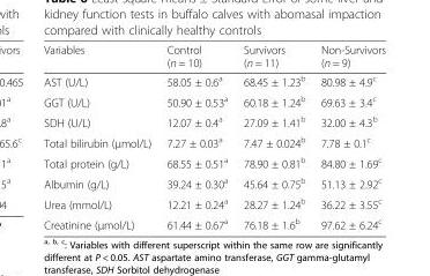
<table><thead><tr><td>Variables</td><td>Control (n = 10)</td><td>Survivors (n = 11)</td><td>Non-Survivors (n = 9)</td></tr></thead><tbody><tr><td>AST (U/L)</td><td>58.05 ± 0.6<sup>a</sup></td><td>68.45 ± 1.23<sup>b</sup></td><td>80.98 ± 4.9<sup>c</sup></td></tr><tr><td>GGT (U/L)</td><td>50.90 ± 0.53<sup>a</sup></td><td>60.18 ± 1.24<sup>b</sup></td><td>69.63 ± 3.4<sup>c</sup></td></tr><tr><td>SDH (U/L)</td><td>12.07 ± 0.4<sup>a</sup></td><td>27.09 ± 1.41<sup>b</sup></td><td>32.00 ± 4.3<sup>b</sup></td></tr><tr><td>Total bilirubin (μmol/L)</td><td>7.27 ± 0.03<sup>a</sup></td><td>7.47 ± 0.024<sup>b</sup></td><td>7.78 ± 0.1<sup>c</sup></td></tr><tr><td>Total protein (g/L)</td><td>68.55 ± 0.51<sup>a</sup></td><td>78.90 ± 0.81<sup>b</sup></td><td>84.80 ± 1.69<sup>c</sup></td></tr><tr><td>Albumin (g/L)</td><td>39.24 ± 0.30<sup>a</sup></td><td>45.64 ± 0.75<sup>b</sup></td><td>51.13 ± 2.92<sup>c</sup></td></tr><tr><td>Urea (mmol/L)</td><td>12.21 ± 0.24<sup>a</sup></td><td>28.27 ± 1.24<sup>b</sup></td><td>36.22 ± 3.55<sup>c</sup></td></tr><tr><td>Creatinine (μmol/L)</td><td>61.44 ± 0.67<sup>a</sup></td><td>76.18 ± 1.6<sup>b</sup></td><td>97.62 ± 6.24<sup>c</sup></td></tr></tbody></table>